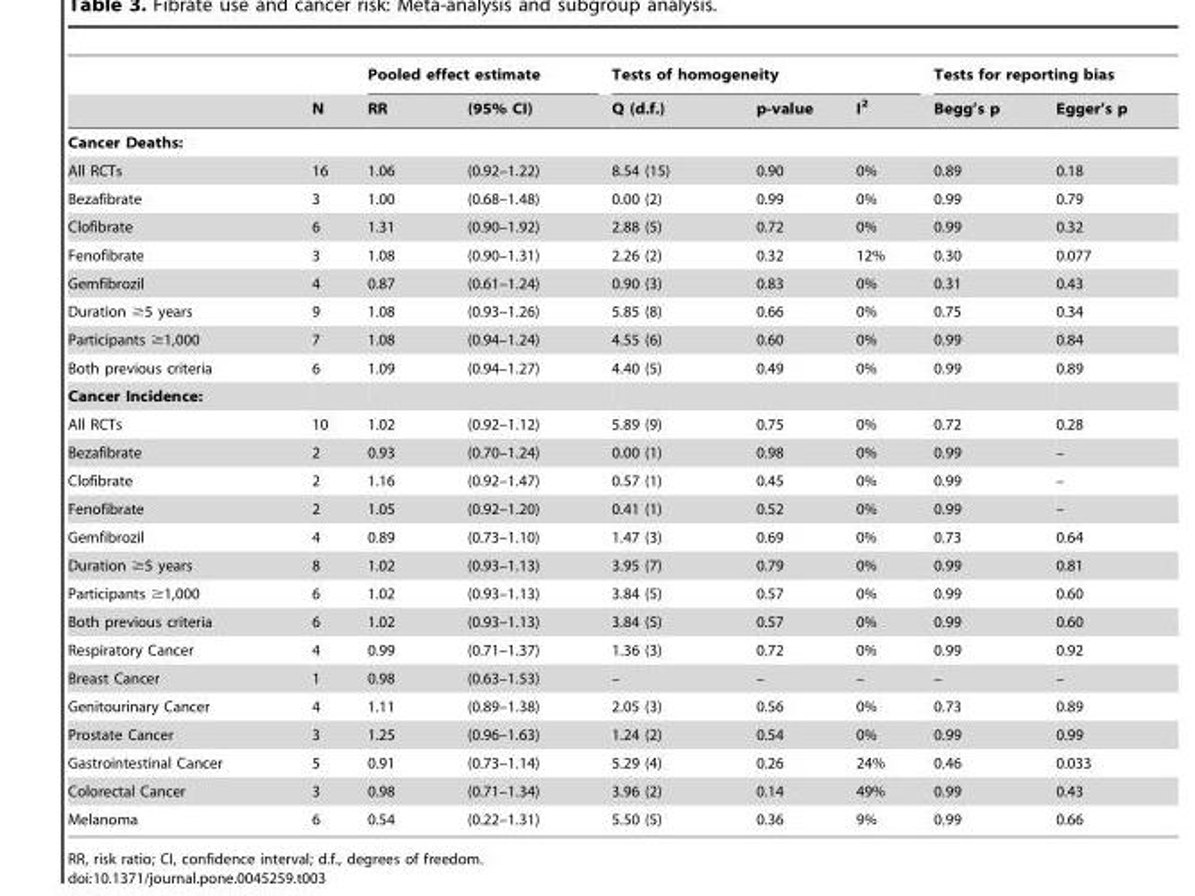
<table><thead><tr><td rowspan="2"></td><td rowspan="2">N</td><td colspan="2">Pooled effect estimate</td><td colspan="3">Tests of homogeneity</td><td colspan="2">Tests for reporting bias</td></tr><tr><td>RR</td><td>(95% CI)</td><td>Q (d.f.)</td><td>p-value</td><td>I<sup>2</sup></td><td>Begg’s p</td><td>Egger’s p</td></tr></thead><tbody><tr><td colspan="9">Cancer Deaths:</td></tr><tr><td>All RCTs</td><td>16</td><td>1.06</td><td>(0.92–1.22)</td><td>8.54 (15)</td><td>0.90</td><td>0%</td><td>0.89</td><td>0.18</td></tr><tr><td>Bezafibrate</td><td>3</td><td>1.00</td><td>(0.68–1.48)</td><td>0.00 (2)</td><td>0.99</td><td>0%</td><td>0.99</td><td>0.79</td></tr><tr><td>Clofibrate</td><td>6</td><td>1.31</td><td>(0.90–1.92)</td><td>2.88 (5)</td><td>0.72</td><td>0%</td><td>0.99</td><td>0.32</td></tr><tr><td>Fenofibrate</td><td>3</td><td>1.08</td><td>(0.90–1.31)</td><td>2.26 (2)</td><td>0.32</td><td>12%</td><td>0.30</td><td>0.077</td></tr><tr><td>Gemfibrozil</td><td>4</td><td>0.87</td><td>(0.61–1.24)</td><td>0.90 (3)</td><td>0.83</td><td>0%</td><td>0.31</td><td>0.43</td></tr><tr><td>Duration ≥5 years</td><td>9</td><td>1.08</td><td>(0.93–1.26)</td><td>5.85 (8)</td><td>0.66</td><td>0%</td><td>0.75</td><td>0.34</td></tr><tr><td>Participants ≥1,000</td><td>7</td><td>1.08</td><td>(0.94–1.24)</td><td>4.55 (6)</td><td>0.60</td><td>0%</td><td>0.99</td><td>0.84</td></tr><tr><td>Both previous criteria</td><td>6</td><td>1.09</td><td>(0.94–1.27)</td><td>4.40 (5)</td><td>0.49</td><td>0%</td><td>0.99</td><td>0.89</td></tr><tr><td colspan="9">Cancer Incidence:</td></tr><tr><td>All RCTs</td><td>10</td><td>1.02</td><td>(0.92–1.12)</td><td>5.89 (9)</td><td>0.75</td><td>0%</td><td>0.72</td><td>0.28</td></tr><tr><td>Bezafibrate</td><td>2</td><td>0.93</td><td>(0.70–1.24)</td><td>0.00 (1)</td><td>0.98</td><td>0%</td><td>0.99</td><td>–</td></tr><tr><td>Clofibrate</td><td>2</td><td>1.16</td><td>(0.92–1.47)</td><td>0.57 (1)</td><td>0.45</td><td>0%</td><td>0.99</td><td>–</td></tr><tr><td>Fenofibrate</td><td>2</td><td>1.05</td><td>(0.92–1.20)</td><td>0.41 (1)</td><td>0.52</td><td>0%</td><td>0.99</td><td>–</td></tr><tr><td>Gemfibrozil</td><td>4</td><td>0.89</td><td>(0.73–1.10)</td><td>1.47 (3)</td><td>0.69</td><td>0%</td><td>0.73</td><td>0.64</td></tr><tr><td>Duration ≥5 years</td><td>8</td><td>1.02</td><td>(0.93–1.13)</td><td>3.95 (7)</td><td>0.79</td><td>0%</td><td>0.99</td><td>0.81</td></tr><tr><td>Participants ≥1,000</td><td>6</td><td>1.02</td><td>(0.93–1.13)</td><td>3.84 (5)</td><td>0.57</td><td>0%</td><td>0.99</td><td>0.60</td></tr><tr><td>Both previous criteria</td><td>6</td><td>1.02</td><td>(0.93–1.13)</td><td>3.84 (5)</td><td>0.57</td><td>0%</td><td>0.99</td><td>0.60</td></tr><tr><td>Respiratory Cancer</td><td>4</td><td>0.99</td><td>(0.71–1.37)</td><td>1.36 (3)</td><td>0.72</td><td>0%</td><td>0.99</td><td>0.92</td></tr><tr><td>Breast Cancer</td><td>1</td><td>0.98</td><td>(0.63–1.53)</td><td>–</td><td>–</td><td>–</td><td>–</td><td>–</td></tr><tr><td>Genitourinary Cancer</td><td>4</td><td>1.11</td><td>(0.89–1.38)</td><td>2.05 (3)</td><td>0.56</td><td>0%</td><td>0.73</td><td>0.89</td></tr><tr><td>Prostate Cancer</td><td>3</td><td>1.25</td><td>(0.96–1.63)</td><td>1.24 (2)</td><td>0.54</td><td>0%</td><td>0.99</td><td>0.99</td></tr><tr><td>Gastrointestinal Cancer</td><td>5</td><td>0.91</td><td>(0.73–1.14)</td><td>5.29 (4)</td><td>0.26</td><td>24%</td><td>0.46</td><td>0.033</td></tr><tr><td>Colorectal Cancer</td><td>3</td><td>0.98</td><td>(0.71–1.34)</td><td>3.96 (2)</td><td>0.14</td><td>49%</td><td>0.99</td><td>0.43</td></tr><tr><td>Melanoma</td><td>6</td><td>0.54</td><td>(0.22–1.31)</td><td>5.50 (5)</td><td>0.36</td><td>9%</td><td>0.99</td><td>0.66</td></tr></tbody></table>